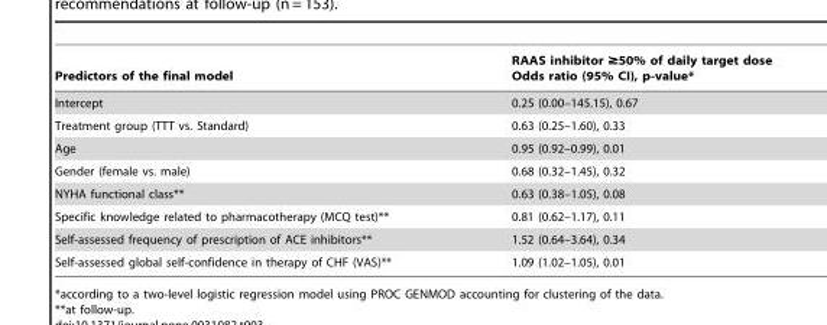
<table><thead><tr><td>Predictors of the final model</td><td>RAAS inhibitor ≥50% of daily target dose Odds ratio (95% CI), p-value*</td></tr></thead><tbody><tr><td>Intercept</td><td>0.25 (0.00–145.15), 0.67</td></tr><tr><td>Treatment group (TTT vs. Standard)</td><td>0.63 (0.25–1.60), 0.33</td></tr><tr><td>Age</td><td>0.95 (0.92–0.99), 0.01</td></tr><tr><td>Gender (female vs. male)</td><td>0.68 (0.32–1.45), 0.32</td></tr><tr><td>NYHA functional class**</td><td>0.63 (0.38–1.05), 0.08</td></tr><tr><td>Specific knowledge related to pharmacotherapy (MCQ test)**</td><td>0.81 (0.62–1.17), 0.11</td></tr><tr><td>Self-assessed frequency of prescription of ACE inhibitors**</td><td>1.52 (0.64–3.64), 0.34</td></tr><tr><td>Self-assessed global self-confidence in therapy of CHF (VAS)**</td><td>1.09 (1.02–1.05), 0.01</td></tr></tbody></table>